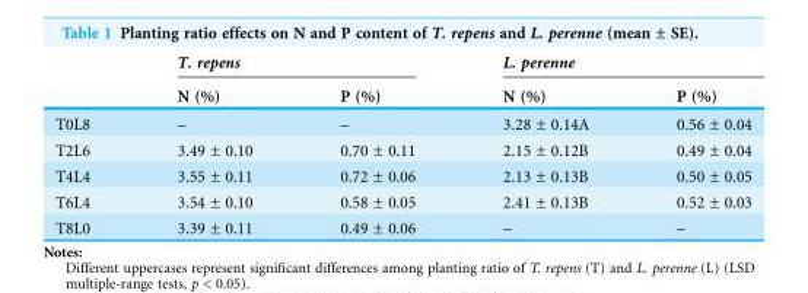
<table><thead><tr><td rowspan="2"></td><td colspan="2">T. repens</td><td colspan="2">L. perenne</td></tr><tr><td>N (%)</td><td>P (%)</td><td>N (%)</td><td>P (%)</td></tr></thead><tbody><tr><td>T0L8</td><td>–</td><td>–</td><td>3.28 ± 0.14A</td><td>0.56 ± 0.04</td></tr><tr><td>T2L6</td><td>3.49 ± 0.10</td><td>0.70 ± 0.11</td><td>2.15 ± 0.12B</td><td>0.49 ± 0.04</td></tr><tr><td>T4L4</td><td>3.55 ± 0.11</td><td>0.72 ± 0.06</td><td>2.13 ± 0.13B</td><td>0.50 ± 0.05</td></tr><tr><td>T6L4</td><td>3.54 ± 0.10</td><td>0.58 ± 0.05</td><td>2.41 ± 0.13B</td><td>0.52 ± 0.03</td></tr><tr><td>T8L0</td><td>3.39 ± 0.11</td><td>0.49 ± 0.06</td><td>–</td><td>–</td></tr></tbody></table>